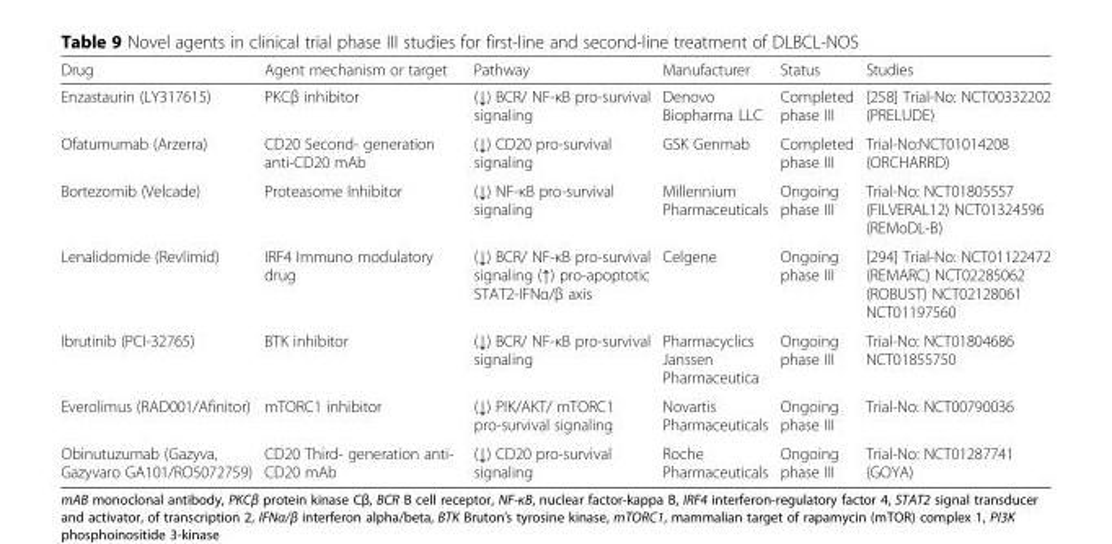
<table><thead><tr><td>Drug</td><td>Agent mechanism or target</td><td>Pathway</td><td>Manufacturer</td><td>Status</td><td>Studies</td></tr></thead><tbody><tr><td>Enzastaurin (LY317615)</td><td>PKCβ inhibitor</td><td>(↓) BCR/ NF-κB pro-survival signaling</td><td>Denovo Biopharma LLC</td><td>Completed phase III</td><td>[258] Trial-No: NCT00332202 (PRELUDE)</td></tr><tr><td>Ofatumumab (Arzerra)</td><td>CD20 Second- generation anti-CD20 mAb</td><td>(↓) CD20 pro-survival signaling</td><td>GSK Genmab</td><td>Completed phase III</td><td>Trial-No:NCT01014208 (ORCHARRD)</td></tr><tr><td>Bortezomib (Velcade)</td><td>Proteasome Inhibitor</td><td>(↓) NF-κB pro-survival signaling</td><td>Millennium Pharmaceuticals</td><td>Ongoing phase III</td><td>Trial-No: NCT01805557 (FILVERAL12) NCT01324596 (REMoDL-B)</td></tr><tr><td>Lenalidomide (Revlimid)</td><td>IRF4 Immuno modulatory drug</td><td>(↓) BCR/ NF-κB pro-survival signaling (↑) pro-apoptotic STAT2-IFNα/β axis</td><td>Celgene</td><td>Ongoing phase III</td><td>[294] Trial-No: NCT01122472 (REMARC) NCT02285062 (ROBUST) NCT02128061 NCT01197560</td></tr><tr><td>Ibrutinib (PCI-32765)</td><td>BTK inhibitor</td><td>(↓) BCR/ NF-κB pro-survival signaling</td><td>Pharmacyclics Janssen Pharmaceutica</td><td>Ongoing phase III</td><td>Trial-No: NCT01804686 NCT01855750</td></tr><tr><td>Everolimus (RAD001/Afinitor)</td><td>mTORC1 inhibitor</td><td>(↓) PIK/AKT/ mTORC1 pro-survival signaling</td><td>Novartis Pharmaceuticals</td><td>Ongoing phase III</td><td>Trial-No: NCT00790036</td></tr><tr><td>Obinutuzumab (Gazyva, Gazyvaro GA101/RO5072759)</td><td>CD20 Third- generation anti- CD20 mAb</td><td>(↓) CD20 pro-survival signaling</td><td>Roche Pharmaceuticals</td><td>Ongoing phase III</td><td>Trial-No: NCT01287741 (GOYA)</td></tr></tbody></table>